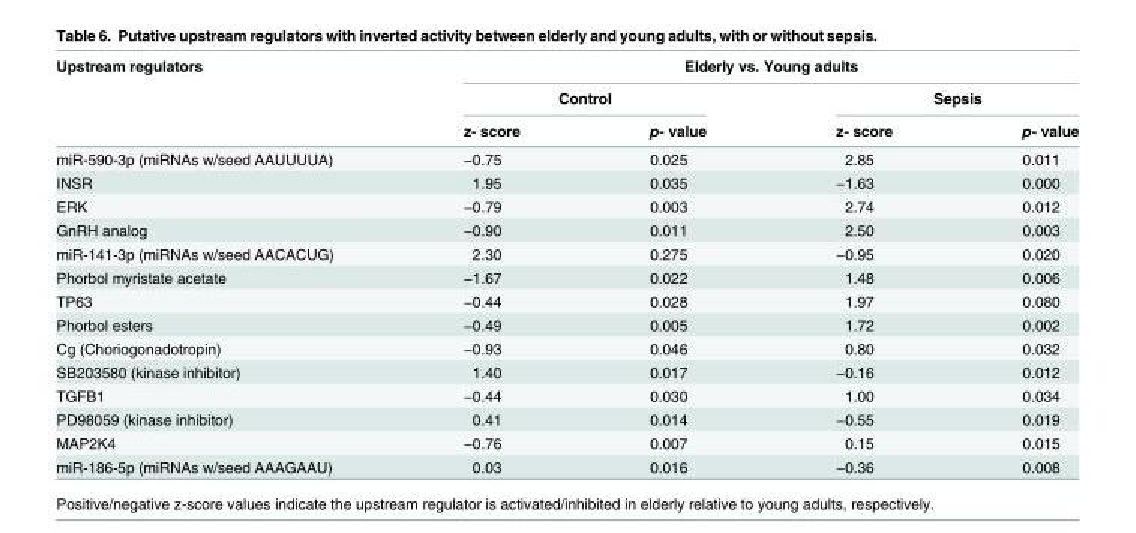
<table><thead><tr><td rowspan="3">Upstream regulators</td><td colspan="4">Elderly vs. Young adults</td></tr><tr><td colspan="2">Control</td><td colspan="2">Sepsis</td></tr><tr><td>z- score</td><td>p- value</td><td>z- score</td><td>p- value</td></tr></thead><tbody><tr><td>miR-590-3p (miRNAs w/seed AAUUUUA)</td><td>−0.75</td><td>0.025</td><td>2.85</td><td>0.011</td></tr><tr><td>INSR</td><td>1.95</td><td>0.035</td><td>−1.63</td><td>0.000</td></tr><tr><td>ERK</td><td>−0.79</td><td>0.003</td><td>2.74</td><td>0.012</td></tr><tr><td>GnRH analog</td><td>−0.90</td><td>0.011</td><td>2.50</td><td>0.003</td></tr><tr><td>miR-141-3p (miRNAs w/seed AACACUG)</td><td>2.30</td><td>0.275</td><td>−0.95</td><td>0.020</td></tr><tr><td>Phorbol myristate acetate</td><td>−1.67</td><td>0.022</td><td>1.48</td><td>0.006</td></tr><tr><td>TP63</td><td>−0.44</td><td>0.028</td><td>1.97</td><td>0.080</td></tr><tr><td>Phorbol esters</td><td>−0.49</td><td>0.005</td><td>1.72</td><td>0.002</td></tr><tr><td>Cg (Choriogonadotropin)</td><td>−0.93</td><td>0.046</td><td>0.80</td><td>0.032</td></tr><tr><td>SB203580 (kinase inhibitor)</td><td>1.40</td><td>0.017</td><td>−0.16</td><td>0.012</td></tr><tr><td>TGFB1</td><td>−0.44</td><td>0.030</td><td>1.00</td><td>0.034</td></tr><tr><td>PD98059 (kinase inhibitor)</td><td>0.41</td><td>0.014</td><td>−0.55</td><td>0.019</td></tr><tr><td>MAP2K4</td><td>−0.76</td><td>0.007</td><td>0.15</td><td>0.015</td></tr><tr><td>miR-186-5p (miRNAs w/seed AAAGAAU)</td><td>0.03</td><td>0.016</td><td>−0.36</td><td>0.008</td></tr></tbody></table>